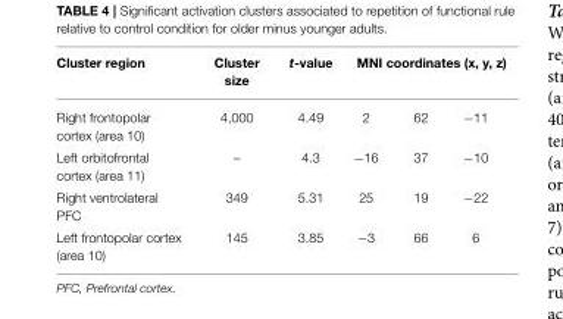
<table><thead><tr><td rowspan="2">Cluster region Right frontopolar cortex (area 10)</td><td rowspan="2">Cluster size 4,000</td><td rowspan="2">t-value 4.49</td><td colspan="3">MNI coordinates (x, y, z)</td></tr><tr><td>2</td><td>62</td><td>−11</td></tr></thead><tbody><tr><td>Left orbitofrontal cortex (area 11)</td><td>–</td><td>4.3</td><td>−16</td><td>37</td><td>−10</td></tr><tr><td>Right ventrolateral PFC</td><td>349</td><td>5.31</td><td>25</td><td>19</td><td>−22</td></tr><tr><td>Left frontopolar cortex (area 10)</td><td>145</td><td>3.85</td><td>−3</td><td>66</td><td>6</td></tr></tbody></table>